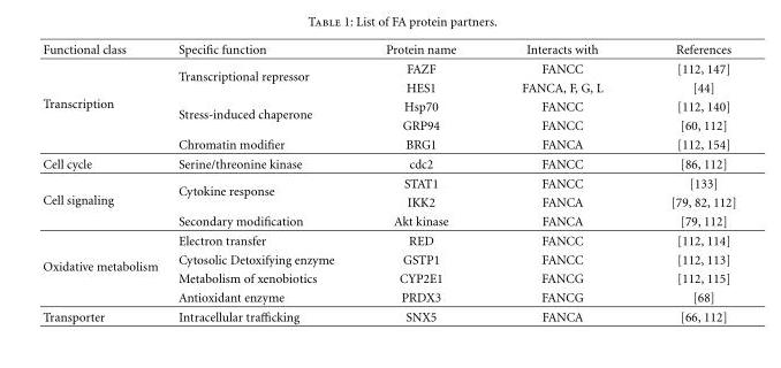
<table><thead><tr><td>Functional class</td><td>Specific function</td><td>Protein name</td><td>Interacts with</td><td>References</td></tr></thead><tbody><tr><td rowspan="5">Transcription</td><td rowspan="2">Transcriptional repressor</td><td>FAZF</td><td>FANCC</td><td>[112, 147]</td></tr><tr><td>HES1</td><td>FANCA, F, G, L</td><td>[44]</td></tr><tr><td rowspan="2">Stress-induced chaperone</td><td>Hsp70</td><td>FANCC</td><td>[112, 140]</td></tr><tr><td>GRP94</td><td>FANCC</td><td>[60, 112]</td></tr><tr><td>Chromatin modifier</td><td>BRG1</td><td>FANCA</td><td>[112, 154]</td></tr><tr><td>Cell cycle</td><td>Serine/threonine kinase</td><td>cdc2</td><td>FANCC</td><td>[86, 112]</td></tr><tr><td rowspan="3">Cell signaling</td><td rowspan="2">Cytokine response</td><td>STAT1</td><td>FANCC</td><td>[133]</td></tr><tr><td>IKK2</td><td>FANCA</td><td>[79, 82, 112]</td></tr><tr><td>Secondary modification</td><td>Akt kinase</td><td>FANCA</td><td>[79, 112]</td></tr><tr><td rowspan="4">Oxidative metabolism</td><td>Electron transfer</td><td>RED</td><td>FANCC</td><td>[112, 114]</td></tr><tr><td>Cytosolic Detoxifying enzyme</td><td>GSTP1</td><td>FANCC</td><td>[112, 113]</td></tr><tr><td>Metabolism of xenobiotics</td><td>CYP2E1</td><td>FANCG</td><td>[112, 115]</td></tr><tr><td>Antioxidant enzyme</td><td>PRDX3</td><td>FANCG</td><td>[68]</td></tr><tr><td>Transporter</td><td>Intracellular trafficking</td><td>SNX5</td><td>FANCA</td><td>[66, 112]</td></tr></tbody></table>